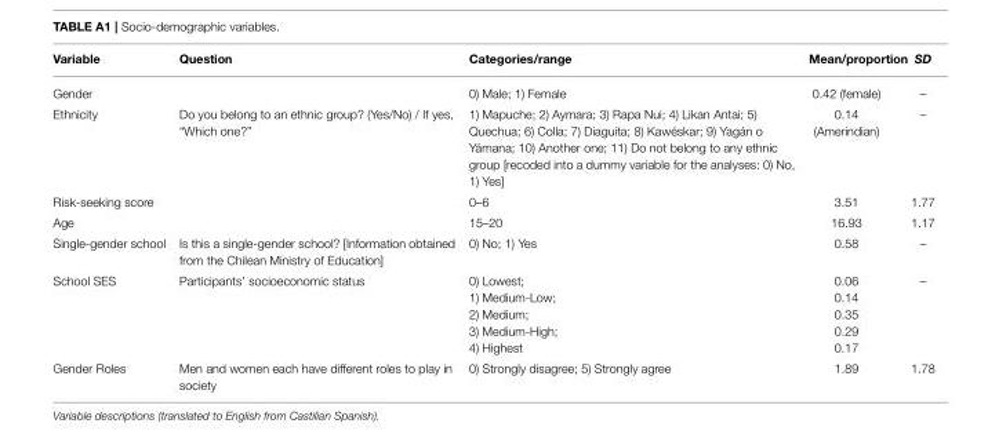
<table><thead><tr><td>Variable</td><td>Question</td><td>Categories/range</td><td>Mean/proportion</td><td>SD</td></tr></thead><tbody><tr><td>Gender</td><td></td><td>0) Male; 1) Female</td><td>0.42 (female)</td><td>–</td></tr><tr><td>Ethnicity</td><td>Do you belong to an ethnic group? (Yes/No) / If yes, “Which one?”</td><td>1) Mapuche; 2) Aymara; 3) Rapa Nui; 4) Likan Antai; 5) Quechua; 6) Colla; 7) Diaguita; 8) Kawéskar; 9) Yagán o Yámana; 10) Another one; 11) Do not belong to any ethnic group [recoded into a dummy variable for the analyses: 0) No, 1) Yes]</td><td>0.14 (Amerindian)</td><td>–</td></tr><tr><td>Risk-seeking score</td><td></td><td>0–6</td><td>3.51</td><td>1.77</td></tr><tr><td>Age</td><td></td><td>15–20</td><td>16.93</td><td>1.17</td></tr><tr><td>Single-gender school</td><td>Is this a single-gender school? [Information obtained from the Chilean Ministry of Education]</td><td>0) No; 1) Yes</td><td>0.58</td><td>–</td></tr><tr><td>School SES</td><td>Participants’ socioeconomic status</td><td>0) Lowest; 1) Medium-Low; 2) Medium; 3) Medium-High; 4) Highest</td><td>0.06 0.14 0.35 0.29 0.17</td><td>–</td></tr><tr><td>Gender Roles</td><td>Men and women each have different roles to play in society</td><td>0) Strongly disagree; 5) Strongly agree</td><td>1.89</td><td>1.78</td></tr></tbody></table>